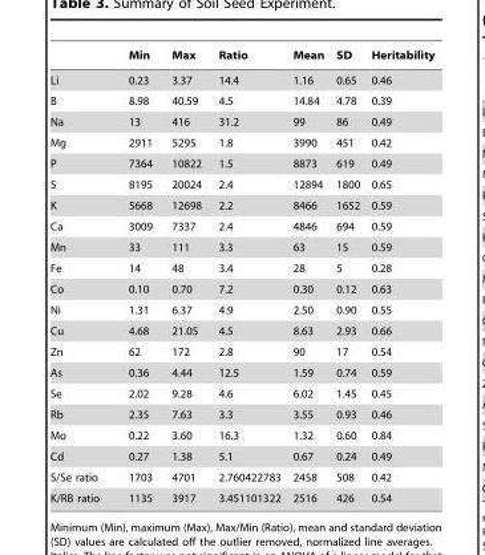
<table><thead><tr><td></td><td>Min</td><td>Max</td><td>Ratio</td><td>Mean</td><td>SD</td><td>Heritability</td></tr></thead><tbody><tr><td>Li</td><td>0.23</td><td>3.37</td><td>14.4</td><td>1.16</td><td>0.65</td><td>0.46</td></tr><tr><td>B</td><td>8.98</td><td>40.59</td><td>4.5</td><td>14.84</td><td>4.78</td><td>0.39</td></tr><tr><td>Na</td><td>13</td><td>416</td><td>31.2</td><td>99</td><td>86</td><td>0.49</td></tr><tr><td>Mg</td><td>2911</td><td>5295</td><td>1.8</td><td>3990</td><td>451</td><td>0.42</td></tr><tr><td>P</td><td>7364</td><td>10822</td><td>1.5</td><td>8873</td><td>619</td><td>0.49</td></tr><tr><td>S</td><td>8195</td><td>20024</td><td>2.4</td><td>12894</td><td>1800</td><td>0.65</td></tr><tr><td>K</td><td>5668</td><td>12698</td><td>2.2</td><td>8466</td><td>1652</td><td>0.59</td></tr><tr><td>Ca</td><td>3009</td><td>7337</td><td>2.4</td><td>4846</td><td>694</td><td>0.59</td></tr><tr><td>Mn</td><td>33</td><td>111</td><td>3.3</td><td>63</td><td>15</td><td>0.59</td></tr><tr><td>Fe</td><td>14</td><td>48</td><td>3.4</td><td>28</td><td>5</td><td>0.28</td></tr><tr><td>Co</td><td>0.10</td><td>0.70</td><td>7.2</td><td>0.30</td><td>0.12</td><td>0.63</td></tr><tr><td>Ni</td><td>1.31</td><td>6.37</td><td>4.9</td><td>2.50</td><td>0.90</td><td>0.55</td></tr><tr><td>Cu</td><td>4.68</td><td>21.05</td><td>4.5</td><td>8.63</td><td>2.93</td><td>0.66</td></tr><tr><td>Zn</td><td>62</td><td>172</td><td>2.8</td><td>90</td><td>17</td><td>0.54</td></tr><tr><td>As</td><td>0.36</td><td>4.44</td><td>12.5</td><td>1.59</td><td>0.74</td><td>0.59</td></tr><tr><td>Se</td><td>2.02</td><td>9.28</td><td>4.6</td><td>6.02</td><td>1.45</td><td>0.45</td></tr><tr><td>Rb</td><td>2.35</td><td>7.63</td><td>3.3</td><td>3.55</td><td>0.93</td><td>0.46</td></tr><tr><td>Mo</td><td>0.22</td><td>3.60</td><td>16.3</td><td>1.32</td><td>0.60</td><td>0.84</td></tr><tr><td>Cd</td><td>0.27</td><td>1.38</td><td>5.1</td><td>0.67</td><td>0.24</td><td>0.49</td></tr><tr><td>S/Se ratio</td><td>1703</td><td>4701</td><td>2.760422783</td><td>2458</td><td>508</td><td>0.42</td></tr><tr><td>K/RB ratio</td><td>1135</td><td>3917</td><td>3.451101322</td><td>2516</td><td>426</td><td>0.54</td></tr></tbody></table>